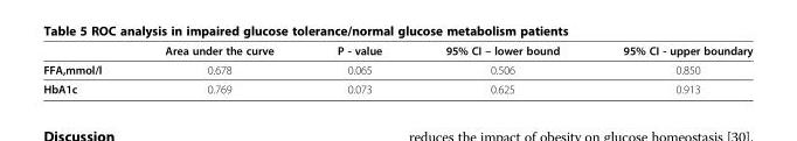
<table><thead><tr><td></td><td>Area under the curve</td><td>P - value</td><td>95% CI – lower bound</td><td>95% CI - upper boundary</td></tr></thead><tbody><tr><td>FFA,mmol/l</td><td>0.678</td><td>0.065</td><td>0.506</td><td>0.850</td></tr><tr><td>HbA1c</td><td>0.769</td><td>0.073</td><td>0.625</td><td>0.913</td></tr></tbody></table>